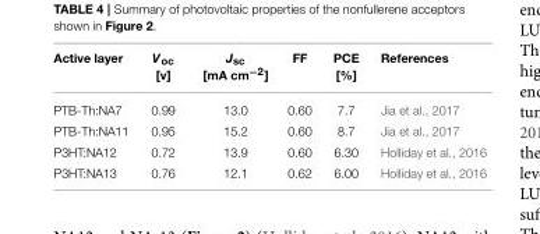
<table><thead><tr><td>Active layer</td><td>V<sub>oc</sub> [v]</td><td>J<sub>sc</sub> [mA cm<sup>−2</sup>]</td><td>FF</td><td>PCE [%]</td><td>References</td></tr></thead><tbody><tr><td>PTB-Th:NA7</td><td>0.99</td><td>13.0</td><td>0.60</td><td>7.7</td><td>Jia et al., 2017</td></tr><tr><td>PTB-Th:NA11</td><td>0.95</td><td>15.2</td><td>0.60</td><td>8.7</td><td>Jia et al., 2017</td></tr><tr><td>P3HT:NA12</td><td>0.72</td><td>13.9</td><td>0.60</td><td>6.30</td><td>Holliday et al., 2016</td></tr><tr><td>P3HT:NA13</td><td>0.76</td><td>12.1</td><td>0.62</td><td>6.00</td><td>Holliday et al., 2016</td></tr></tbody></table>